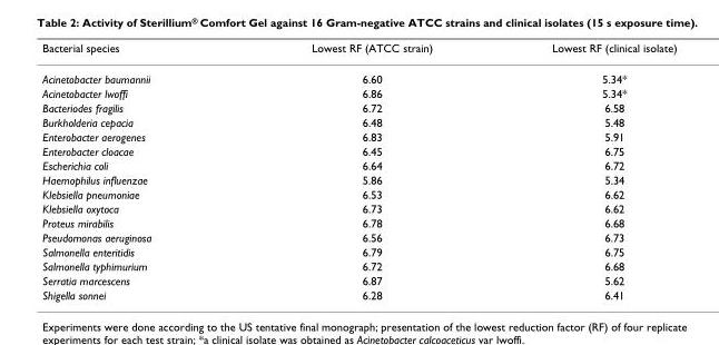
<table><thead><tr><td>Bacterial species</td><td>Lowest RF (ATCC strain)</td><td>Lowest RF (clinical isolate)</td></tr></thead><tbody><tr><td>Acinetobacter baumannii</td><td>6.60</td><td>5.34*</td></tr><tr><td>Acinetobacter lwoffi</td><td>6.86</td><td>5.34*</td></tr><tr><td>Bacteriodes fragilis</td><td>6.72</td><td>6.58</td></tr><tr><td>Burkholderia cepacia</td><td>6.48</td><td>5.48</td></tr><tr><td>Enterobacter aerogenes</td><td>6.83</td><td>5.91</td></tr><tr><td>Enterobacter cloacae</td><td>6.45</td><td>6.75</td></tr><tr><td>Escherichia coli</td><td>6.64</td><td>6.72</td></tr><tr><td>Haemophilus influenzae</td><td>5.86</td><td>5.34</td></tr><tr><td>Klebsiella pneumoniae</td><td>6.53</td><td>6.62</td></tr><tr><td>Klebsiella oxytoca</td><td>6.73</td><td>6.62</td></tr><tr><td>Proteus mirabilis</td><td>6.78</td><td>6.68</td></tr><tr><td>Pseudomonas aeruginosa</td><td>6.56</td><td>6.73</td></tr><tr><td>Salmonella enteritidis</td><td>6.79</td><td>6.75</td></tr><tr><td>Salmonella typhimurium</td><td>6.72</td><td>6.68</td></tr><tr><td>Serratia marcescens</td><td>6.87</td><td>5.62</td></tr><tr><td>Shigella sonnei</td><td>6.28</td><td>6.41</td></tr></tbody></table>